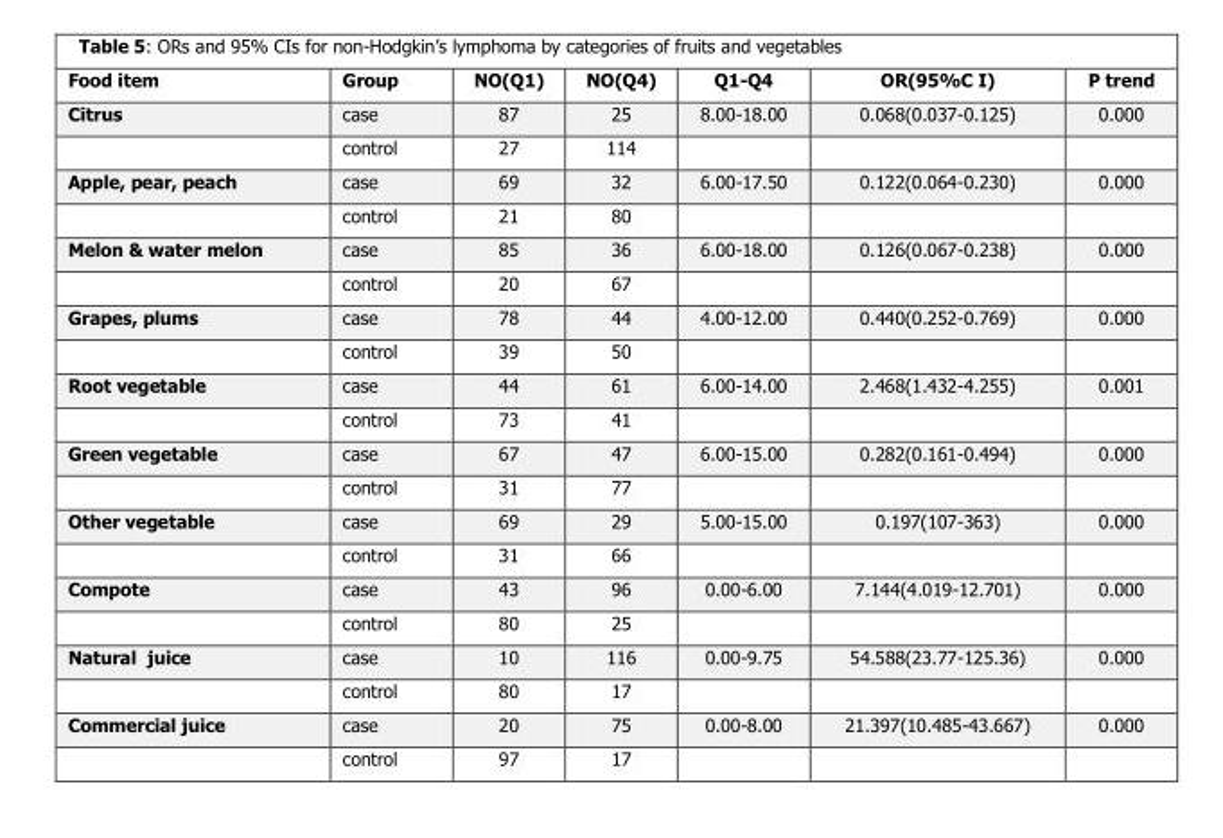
<table><thead><tr><td>Food item</td><td>Group</td><td>NO(Q1)</td><td>NO(Q4)</td><td>Q1-Q4</td><td>OR(95%C I)</td><td>P trend</td></tr></thead><tbody><tr><td rowspan="2">Citrus</td><td>case</td><td>87</td><td>25</td><td>8.00-18.00</td><td>0.068(0.037-0.125)</td><td>0.000</td></tr><tr><td>control</td><td>27</td><td>114</td><td></td><td></td><td></td></tr><tr><td rowspan="2">Apple, pear, peach</td><td>case</td><td>69</td><td>32</td><td>6.00-17.50</td><td>0.122(0.064-0.230)</td><td>0.000</td></tr><tr><td>control</td><td>21</td><td>80</td><td></td><td></td><td></td></tr><tr><td rowspan="2">Melon &amp; water melon</td><td>case</td><td>85</td><td>36</td><td>6.00-18.00</td><td>0.126(0.067-0.238)</td><td>0.000</td></tr><tr><td>control</td><td>20</td><td>67</td><td></td><td></td><td></td></tr><tr><td rowspan="2">Grapes, plums</td><td>case</td><td>78</td><td>44</td><td>4.00-12.00</td><td>0.440(0.252-0.769)</td><td>0.000</td></tr><tr><td>control</td><td>39</td><td>50</td><td></td><td></td><td></td></tr><tr><td rowspan="2">Root vegetable</td><td>case</td><td>44</td><td>61</td><td>6.00-14.00</td><td>2.468(1.432-4.255)</td><td>0.001</td></tr><tr><td>control</td><td>73</td><td>41</td><td></td><td></td><td></td></tr><tr><td rowspan="2">Green vegetable</td><td>case</td><td>67</td><td>47</td><td>6.00-15.00</td><td>0.282(0.161-0.494)</td><td>0.000</td></tr><tr><td>control</td><td>31</td><td>77</td><td></td><td></td><td></td></tr><tr><td rowspan="2">Other vegetable</td><td>case</td><td>69</td><td>29</td><td>5.00-15.00</td><td>0.197(107-363)</td><td>0.000</td></tr><tr><td>control</td><td>31</td><td>66</td><td></td><td></td><td></td></tr><tr><td rowspan="2">Compote</td><td>case</td><td>43</td><td>96</td><td>0.00-6.00</td><td>7.144(4.019-12.701)</td><td>0.000</td></tr><tr><td>control</td><td>80</td><td>25</td><td></td><td></td><td></td></tr><tr><td rowspan="2">Natural juice</td><td>case</td><td>10</td><td>116</td><td>0.00-9.75</td><td>54.588(23.77-125.36)</td><td>0.000</td></tr><tr><td>control</td><td>80</td><td>17</td><td></td><td></td><td></td></tr><tr><td rowspan="2">Commercial juice</td><td>case</td><td>20</td><td>75</td><td>0.00-8.00</td><td>21.397(10.485-43.667)</td><td>0.000</td></tr><tr><td>control</td><td>97</td><td>17</td><td></td><td></td><td></td></tr></tbody></table>